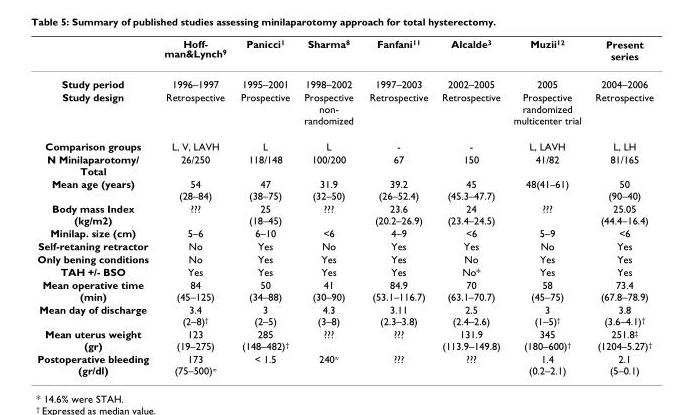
<table><thead><tr><td></td><td>Hoff- man&amp;Lynch9</td><td>Panicci<sup>1</sup></td><td>Sharma<sup>8</sup></td><td>Fanfani<sup>11</sup></td><td>Alcalde<sup>3</sup></td><td>Muzii<sup>12</sup></td><td>Present series</td></tr></thead><tbody><tr><td>Study period</td><td>1996–1997</td><td>1995–2001</td><td>1998–2002</td><td>1997–2003</td><td>2002–2005</td><td>2005</td><td>2004–2006</td></tr><tr><td>Study design</td><td>Retrospective</td><td>Prospective</td><td>Prospective non- randomized</td><td>Retrospective</td><td>Retrospective</td><td>Prospective randomized multicenter trial</td><td>Retrospective</td></tr><tr><td>Comparison groups</td><td>L, V, LAVH</td><td>L</td><td>L</td><td>-</td><td>-</td><td>L, LAVH</td><td>L, LH</td></tr><tr><td>N Minilaparotomy/ Total</td><td>26/250</td><td>118/148</td><td>100/200</td><td>67</td><td>150</td><td>41/82</td><td>81/165</td></tr><tr><td>Mean age (years)</td><td>54 (28–84)</td><td>47 (38–75)</td><td>31.9 (32–50)</td><td>39.2 (26–52.4)</td><td>45 (45.3–47.7)</td><td>48(41–61)</td><td>50 (90–40)</td></tr><tr><td>Body mass Index (kg/m2)</td><td>???</td><td>25 (18–45)</td><td>???</td><td>23.6 (20.2–26.9)</td><td>24 (23.4–24.5)</td><td>???</td><td>25.05 (44.4–16.4)</td></tr><tr><td>Minilap. size (cm)</td><td>5–6</td><td>6–10</td><td>&lt;6</td><td>4–9</td><td>&lt;6</td><td>5–9</td><td>&lt;6</td></tr><tr><td>Self-retaning retractor</td><td>No</td><td>Yes</td><td>No</td><td>Yes</td><td>Yes</td><td>No</td><td>Yes</td></tr><tr><td>Only bening conditions</td><td>No</td><td>Yes</td><td>Yes</td><td>Yes</td><td>No</td><td>Yes</td><td>Yes</td></tr><tr><td>TAH +/- BSO</td><td>Yes</td><td>Yes</td><td>Yes</td><td>Yes</td><td>No*</td><td>Yes</td><td>Yes</td></tr><tr><td>Mean operative time (min)</td><td>84 (45–125)</td><td>50 (34–88)</td><td>41 (30–90)</td><td>84.9 (53.1–116.7)</td><td>70 (63.1–70.7)</td><td>58 (45–75)</td><td>73.4 (67.8–78.9)</td></tr><tr><td>Mean day of discharge</td><td>3.4 (2–8)<sup>†</sup></td><td>3 (2–5)</td><td>4.3 (3–8)</td><td>3.11 (2.3–3.8)</td><td>2.5 (2.4–2.6)</td><td>3 (1–5)<sup>†</sup></td><td>3.8 (3.6–4.1)<sup>†</sup></td></tr><tr><td>Mean uterus weight (gr)</td><td>123 (19–275)</td><td>285 (148–482)<sup>†</sup></td><td>???</td><td>???</td><td>131.9 (113.9–149.8)</td><td>345 (180–600)<sup>†</sup></td><td>251.8<sup>‡</sup> (1204–5.27)<sup>†</sup></td></tr><tr><td>Postoperative bleeding (gr/dl)</td><td>173 (75–500)<sup>≈</sup></td><td>&lt; 1.5</td><td>240<sup>≈</sup></td><td>???</td><td>???</td><td>1.4 (0.2–2.1)</td><td>2.1 (5–0.1)</td></tr></tbody></table>